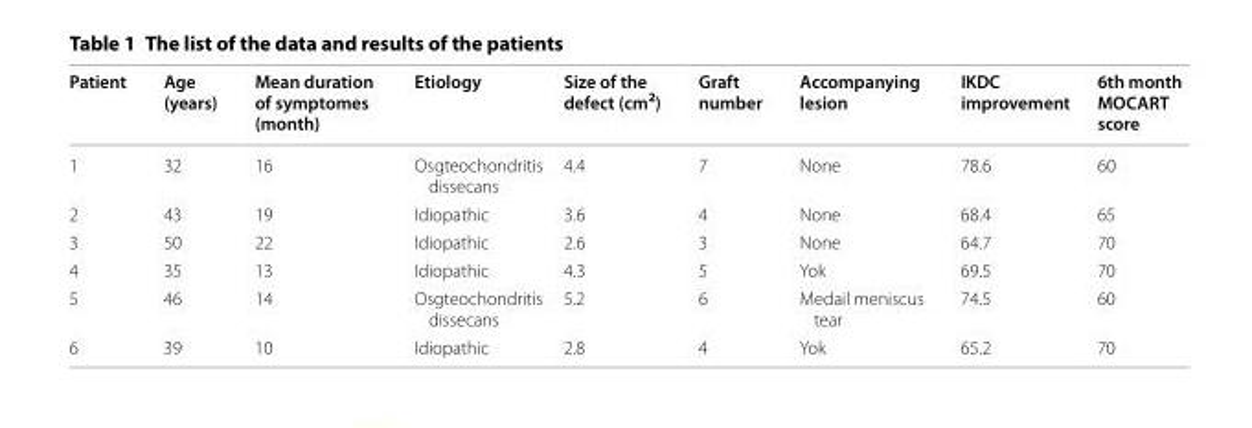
<table><thead><tr><td>Patient</td><td>Age (years)</td><td>Mean duration of symptomes (month)</td><td>Etiology</td><td>Size of the defect (cm<sup>2</sup>)</td><td>Graft number</td><td>Accompanying lesion</td><td>IKDC improvement</td><td>6th month MOCART score</td></tr></thead><tbody><tr><td>1</td><td>32</td><td>16</td><td>Osgteochondritis dissecans</td><td>4.4</td><td>7</td><td>None</td><td>78.6</td><td>60</td></tr><tr><td>2</td><td>43</td><td>19</td><td>Idiopathic</td><td>3.6</td><td>4</td><td>None</td><td>68.4</td><td>65</td></tr><tr><td>3</td><td>50</td><td>22</td><td>Idiopathic</td><td>2.6</td><td>3</td><td>None</td><td>64.7</td><td>70</td></tr><tr><td>4</td><td>35</td><td>13</td><td>Idiopathic</td><td>4.3</td><td>5</td><td>Yok</td><td>69.5</td><td>70</td></tr><tr><td>5</td><td>46</td><td>14</td><td>Osgteochondritis dissecans</td><td>5.2</td><td>6</td><td>Medail meniscus tear</td><td>74.5</td><td>60</td></tr><tr><td>6</td><td>39</td><td>10</td><td>Idiopathic</td><td>2.8</td><td>4</td><td>Yok</td><td>65.2</td><td>70</td></tr></tbody></table>